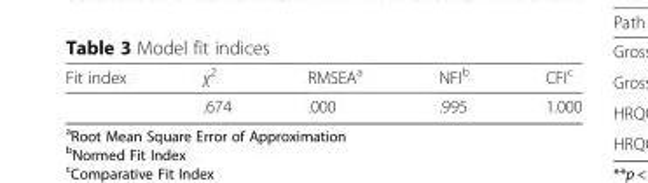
<table><thead><tr><td>Fit index</td><td>χ<sup>2</sup></td><td>RMSEA<sup>a</sup></td><td>NFI<sup>b</sup></td><td>CFI<sup>c</sup></td></tr></thead><tbody><tr><td></td><td>.674</td><td>.000</td><td>.995</td><td>1.000</td></tr></tbody></table>